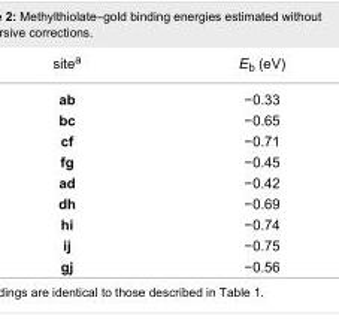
<table><tbody><tr><td>site<sup>a</sup></td><td>E<sub>b</sub> (eV)</td></tr><tr><td>ab</td><td>−0.33</td></tr><tr><td>bc</td><td>−0.65</td></tr><tr><td>cf</td><td>−0.71</td></tr><tr><td>fg</td><td>−0.45</td></tr><tr><td>ad</td><td>−0.42</td></tr><tr><td>dh</td><td>−0.69</td></tr><tr><td>hi</td><td>−0.74</td></tr><tr><td>ij</td><td>−0.75</td></tr><tr><td>gj</td><td>−0.56</td></tr></tbody></table>